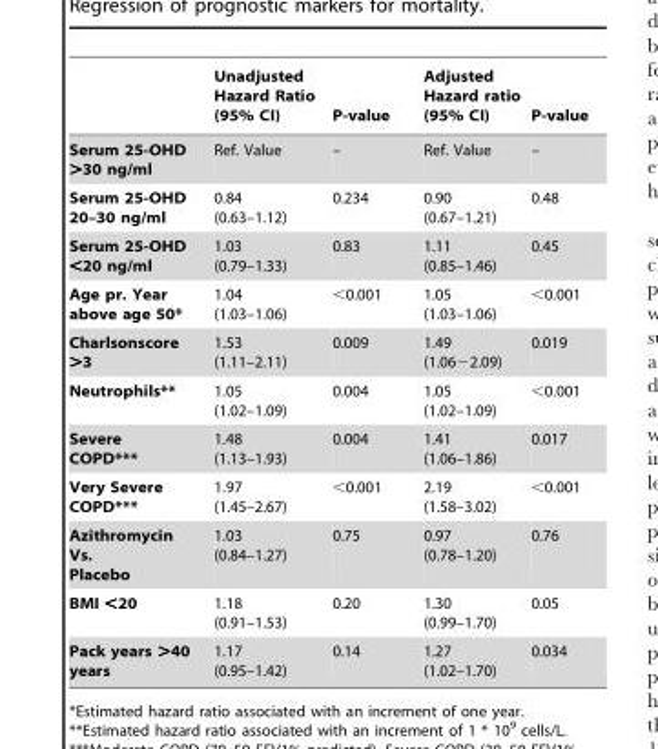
<table><thead><tr><td></td><td>Unadjusted Hazard Ratio (95% CI)</td><td>P-value</td><td>Adjusted Hazard ratio (95% CI)</td><td>P-value</td></tr></thead><tbody><tr><td>Serum 25-OHD &gt;30 ng/ml</td><td>Ref. Value</td><td>–</td><td>Ref. Value</td><td>–</td></tr><tr><td>Serum 25-OHD 20–30 ng/ml</td><td>0.84 (0.63–1.12)</td><td>0.234</td><td>0.90 (0.67–1.21)</td><td>0.48</td></tr><tr><td>Serum 25-OHD &lt;20 ng/ml</td><td>1.03 (0.79–1.33)</td><td>0.83</td><td>1.11 (0.85–1.46)</td><td>0.45</td></tr><tr><td>Age pr. Year above age 50*</td><td>1.04 (1.03–1.06)</td><td>&lt;0.001</td><td>1.05 (1.03–1.06)</td><td>&lt;0.001</td></tr><tr><td>Charlsonscore &gt;3</td><td>1.53 (1.11–2.11)</td><td>0.009</td><td>1.49 (1.06−2.09)</td><td>0.019</td></tr><tr><td>Neutrophils**</td><td>1.05 (1.02–1.09)</td><td>0.004</td><td>1.05 (1.02–1.09)</td><td>&lt;0.001</td></tr><tr><td>Severe COPD***</td><td>1.48 (1.13–1.93)</td><td>0.004</td><td>1.41 (1.06–1.86)</td><td>0.017</td></tr><tr><td>Very Severe COPD***</td><td>1.97 (1.45–2.67)</td><td>&lt;0.001</td><td>2.19 (1.58–3.02)</td><td>&lt;0.001</td></tr><tr><td>Azithromycin Vs. Placebo</td><td>1.03 (0.84–1.27)</td><td>0.75</td><td>0.97 (0.78–1.20)</td><td>0.76</td></tr><tr><td>BMI &lt;20</td><td>1.18 (0.91–1.53)</td><td>0.20</td><td>1.30 (0.99–1.70)</td><td>0.05</td></tr><tr><td>Pack years &gt;40 years</td><td>1.17 (0.95–1.42)</td><td>0.14</td><td>1.27 (1.02–1.70)</td><td>0.034</td></tr></tbody></table>